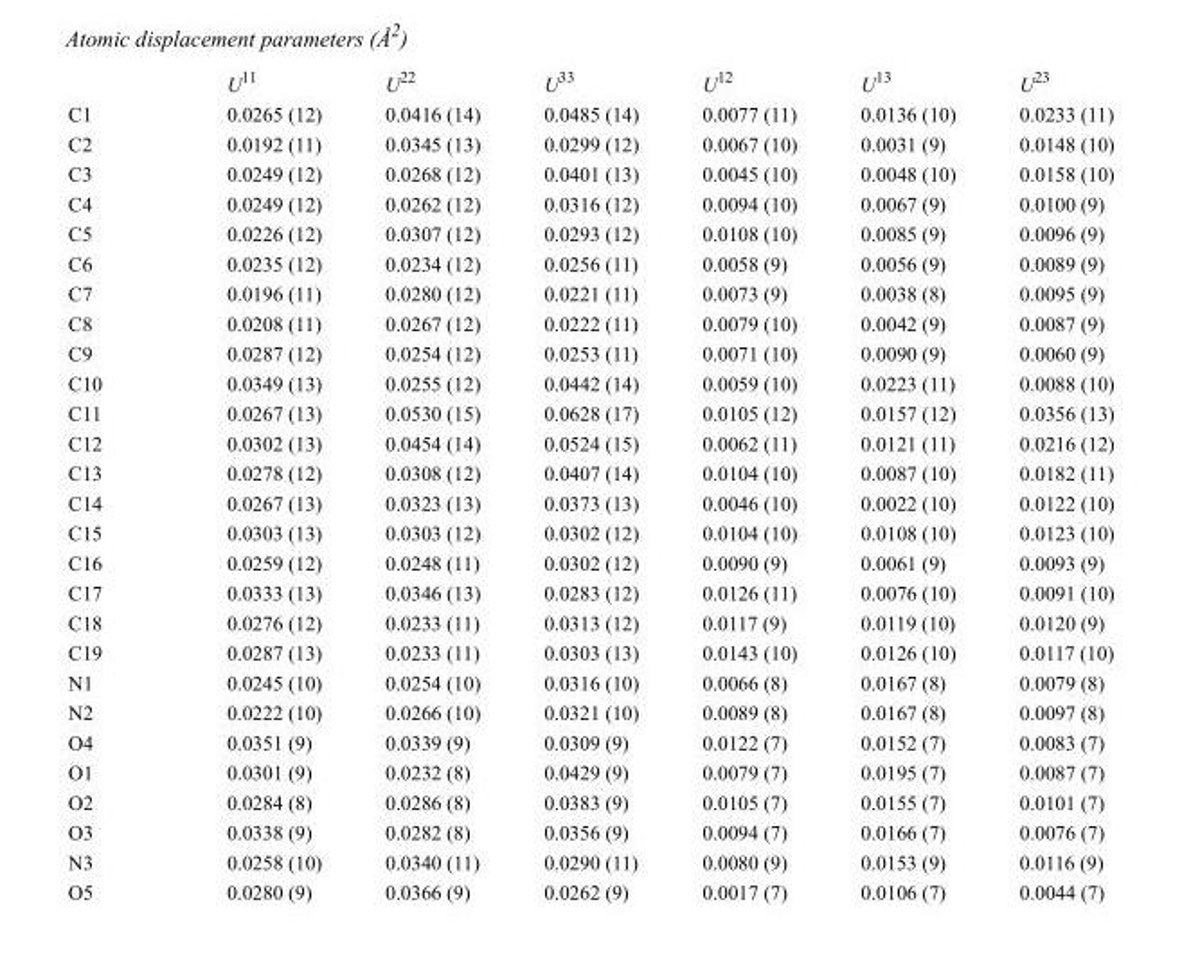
<table><thead><tr><td></td><td>U<sup>11</sup></td><td>U<sup>22</sup></td><td>U<sup>33</sup></td><td>U<sup>12</sup></td><td>U<sup>13</sup></td><td>U<sup>23</sup></td></tr></thead><tbody><tr><td>C1</td><td>0.0265 (12)</td><td>0.0416 (14)</td><td>0.0485 (14)</td><td>0.0077 (11)</td><td>0.0136 (10)</td><td>0.0233 (11)</td></tr><tr><td>C2</td><td>0.0192 (11)</td><td>0.0345 (13)</td><td>0.0299 (12)</td><td>0.0067 (10)</td><td>0.0031 (9)</td><td>0.0148 (10)</td></tr><tr><td>C3</td><td>0.0249 (12)</td><td>0.0268 (12)</td><td>0.0401 (13)</td><td>0.0045 (10)</td><td>0.0048 (10)</td><td>0.0158 (10)</td></tr><tr><td>C4</td><td>0.0249 (12)</td><td>0.0262 (12)</td><td>0.0316 (12)</td><td>0.0094 (10)</td><td>0.0067 (9)</td><td>0.0100 (9)</td></tr><tr><td>C5</td><td>0.0226 (12)</td><td>0.0307 (12)</td><td>0.0293 (12)</td><td>0.0108 (10)</td><td>0.0085 (9)</td><td>0.0096 (9)</td></tr><tr><td>C6</td><td>0.0235 (12)</td><td>0.0234 (12)</td><td>0.0256 (11)</td><td>0.0058 (9)</td><td>0.0056 (9)</td><td>0.0089 (9)</td></tr><tr><td>C7</td><td>0.0196 (11)</td><td>0.0280 (12)</td><td>0.0221 (11)</td><td>0.0073 (9)</td><td>0.0038 (8)</td><td>0.0095 (9)</td></tr><tr><td>C8</td><td>0.0208 (11)</td><td>0.0267 (12)</td><td>0.0222 (11)</td><td>0.0079 (10)</td><td>0.0042 (9)</td><td>0.0087 (9)</td></tr><tr><td>C9</td><td>0.0287 (12)</td><td>0.0254 (12)</td><td>0.0253 (11)</td><td>0.0071 (10)</td><td>0.0090 (9)</td><td>0.0060 (9)</td></tr><tr><td>C10</td><td>0.0349 (13)</td><td>0.0255 (12)</td><td>0.0442 (14)</td><td>0.0059 (10)</td><td>0.0223 (11)</td><td>0.0088 (10)</td></tr><tr><td>C11</td><td>0.0267 (13)</td><td>0.0530 (15)</td><td>0.0628 (17)</td><td>0.0105 (12)</td><td>0.0157 (12)</td><td>0.0356 (13)</td></tr><tr><td>C12</td><td>0.0302 (13)</td><td>0.0454 (14)</td><td>0.0524 (15)</td><td>0.0062 (11)</td><td>0.0121 (11)</td><td>0.0216 (12)</td></tr><tr><td>C13</td><td>0.0278 (12)</td><td>0.0308 (12)</td><td>0.0407 (14)</td><td>0.0104 (10)</td><td>0.0087 (10)</td><td>0.0182 (11)</td></tr><tr><td>C14</td><td>0.0267 (13)</td><td>0.0323 (13)</td><td>0.0373 (13)</td><td>0.0046 (10)</td><td>0.0022 (10)</td><td>0.0122 (10)</td></tr><tr><td>C15</td><td>0.0303 (13)</td><td>0.0303 (12)</td><td>0.0302 (12)</td><td>0.0104 (10)</td><td>0.0108 (10)</td><td>0.0123 (10)</td></tr><tr><td>C16</td><td>0.0259 (12)</td><td>0.0248 (11)</td><td>0.0302 (12)</td><td>0.0090 (9)</td><td>0.0061 (9)</td><td>0.0093 (9)</td></tr><tr><td>C17</td><td>0.0333 (13)</td><td>0.0346 (13)</td><td>0.0283 (12)</td><td>0.0126 (11)</td><td>0.0076 (10)</td><td>0.0091 (10)</td></tr><tr><td>C18</td><td>0.0276 (12)</td><td>0.0233 (11)</td><td>0.0313 (12)</td><td>0.0117 (9)</td><td>0.0119 (10)</td><td>0.0120 (9)</td></tr><tr><td>C19</td><td>0.0287 (13)</td><td>0.0233 (11)</td><td>0.0303 (13)</td><td>0.0143 (10)</td><td>0.0126 (10)</td><td>0.0117 (10)</td></tr><tr><td>N1</td><td>0.0245 (10)</td><td>0.0254 (10)</td><td>0.0316 (10)</td><td>0.0066 (8)</td><td>0.0167 (8)</td><td>0.0079 (8)</td></tr><tr><td>N2</td><td>0.0222 (10)</td><td>0.0266 (10)</td><td>0.0321 (10)</td><td>0.0089 (8)</td><td>0.0167 (8)</td><td>0.0097 (8)</td></tr><tr><td>O4</td><td>0.0351 (9)</td><td>0.0339 (9)</td><td>0.0309 (9)</td><td>0.0122 (7)</td><td>0.0152 (7)</td><td>0.0083 (7)</td></tr><tr><td>O1</td><td>0.0301 (9)</td><td>0.0232 (8)</td><td>0.0429 (9)</td><td>0.0079 (7)</td><td>0.0195 (7)</td><td>0.0087 (7)</td></tr><tr><td>O2</td><td>0.0284 (8)</td><td>0.0286 (8)</td><td>0.0383 (9)</td><td>0.0105 (7)</td><td>0.0155 (7)</td><td>0.0101 (7)</td></tr><tr><td>O3</td><td>0.0338 (9)</td><td>0.0282 (8)</td><td>0.0356 (9)</td><td>0.0094 (7)</td><td>0.0166 (7)</td><td>0.0076 (7)</td></tr><tr><td>N3</td><td>0.0258 (10)</td><td>0.0340 (11)</td><td>0.0290 (11)</td><td>0.0080 (9)</td><td>0.0153 (9)</td><td>0.0116 (9)</td></tr><tr><td>O5</td><td>0.0280 (9)</td><td>0.0366 (9)</td><td>0.0262 (9)</td><td>0.0017 (7)</td><td>0.0106 (7)</td><td>0.0044 (7)</td></tr></tbody></table>